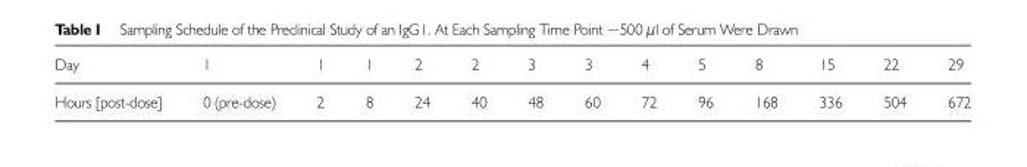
<table><thead><tr><td>Day</td><td>1</td><td>1</td><td>1</td><td>2</td><td>2</td><td>3</td><td>3</td><td>4</td><td>5</td><td>8</td><td>15</td><td>22</td><td>29</td></tr></thead><tbody><tr><td>Hours [post-dose]</td><td>0 (pre-dose)</td><td>2</td><td>8</td><td>24</td><td>40</td><td>48</td><td>60</td><td>72</td><td>96</td><td>168</td><td>336</td><td>504</td><td>672</td></tr></tbody></table>